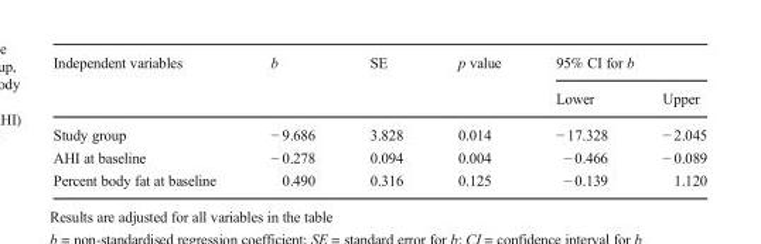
<table><thead><tr><td rowspan="2">Independent variables</td><td rowspan="2">b</td><td rowspan="2">SE</td><td rowspan="2">p value</td><td colspan="2">95% CI for b</td></tr><tr><td>Lower</td><td>Upper</td></tr></thead><tbody><tr><td>Study group</td><td>− 9.686</td><td>3.828</td><td>0.014</td><td>− 17.328</td><td>− 2.045</td></tr><tr><td>AHI at baseline</td><td>− 0.278</td><td>0.094</td><td>0.004</td><td>− 0.466</td><td>− 0.089</td></tr><tr><td>Percent body fat at baseline</td><td>0.490</td><td>0.316</td><td>0.125</td><td>− 0.139</td><td>1.120</td></tr></tbody></table>